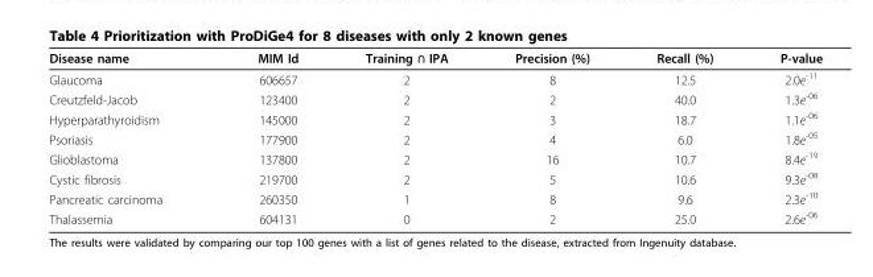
<table><thead><tr><td>Disease name</td><td>MIM Id</td><td>Training ∩ IPA</td><td>Precision (%)</td><td>Recall (%)</td><td>P-value</td></tr></thead><tbody><tr><td>Glaucoma</td><td>606657</td><td>2</td><td>8</td><td>12.5</td><td>2.0e<sup>-11</sup></td></tr><tr><td>Creutzfeld-Jacob</td><td>123400</td><td>2</td><td>2</td><td>40.0</td><td>1.3e<sup>-06</sup></td></tr><tr><td>Hyperparathyroidism</td><td>145000</td><td>2</td><td>3</td><td>18.7</td><td>1.1e<sup>-06</sup></td></tr><tr><td>Psoriasis</td><td>177900</td><td>2</td><td>4</td><td>6.0</td><td>1.8e<sup>-05</sup></td></tr><tr><td>Glioblastoma</td><td>137800</td><td>2</td><td>16</td><td>10.7</td><td>8.4e<sup>-19</sup></td></tr><tr><td>Cystic fibrosis</td><td>219700</td><td>2</td><td>5</td><td>10.6</td><td>9.3e<sup>-08</sup></td></tr><tr><td>Pancreatic carcinoma</td><td>260350</td><td>1</td><td>8</td><td>9.6</td><td>2.3e<sup>-10</sup></td></tr><tr><td>Thalassemia</td><td>604131</td><td>0</td><td>2</td><td>25.0</td><td>2.6e<sup>-06</sup></td></tr></tbody></table>